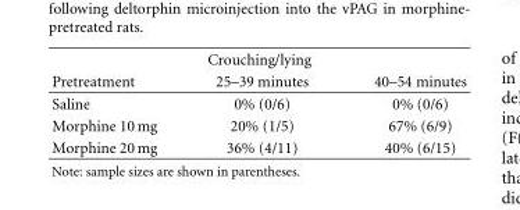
<table><thead><tr><td colspan="3">Crouching/lying</td></tr><tr><td>Pretreatment</td><td>25–39 minutes</td><td>40–54 minutes</td></tr></thead><tbody><tr><td>Saline</td><td>0% (0/6)</td><td>0% (0/6)</td></tr><tr><td>Morphine 10 mg</td><td>20% (1/5)</td><td>67% (6/9)</td></tr><tr><td>Morphine 20 mg</td><td>36% (4/11)</td><td>40% (6/15)</td></tr></tbody></table>